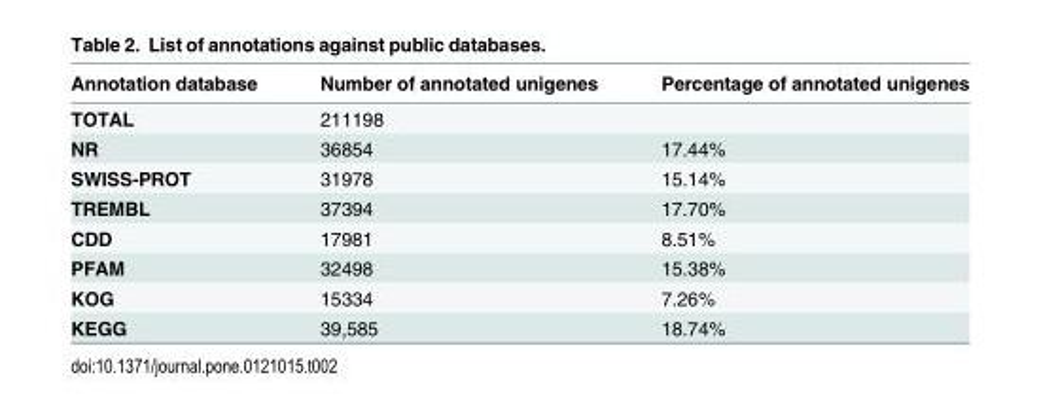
<table><thead><tr><td>Annotation database</td><td>Number of annotated unigenes</td><td>Percentage of annotated unigenes</td></tr></thead><tbody><tr><td>TOTAL</td><td>211198</td><td></td></tr><tr><td>NR</td><td>36854</td><td>17.44%</td></tr><tr><td>SWISS-PROT</td><td>31978</td><td>15.14%</td></tr><tr><td>TREMBL</td><td>37394</td><td>17.70%</td></tr><tr><td>CDD</td><td>17981</td><td>8.51%</td></tr><tr><td>PFAM</td><td>32498</td><td>15.38%</td></tr><tr><td>KOG</td><td>15334</td><td>7.26%</td></tr><tr><td>KEGG</td><td>39,585</td><td>18.74%</td></tr></tbody></table>